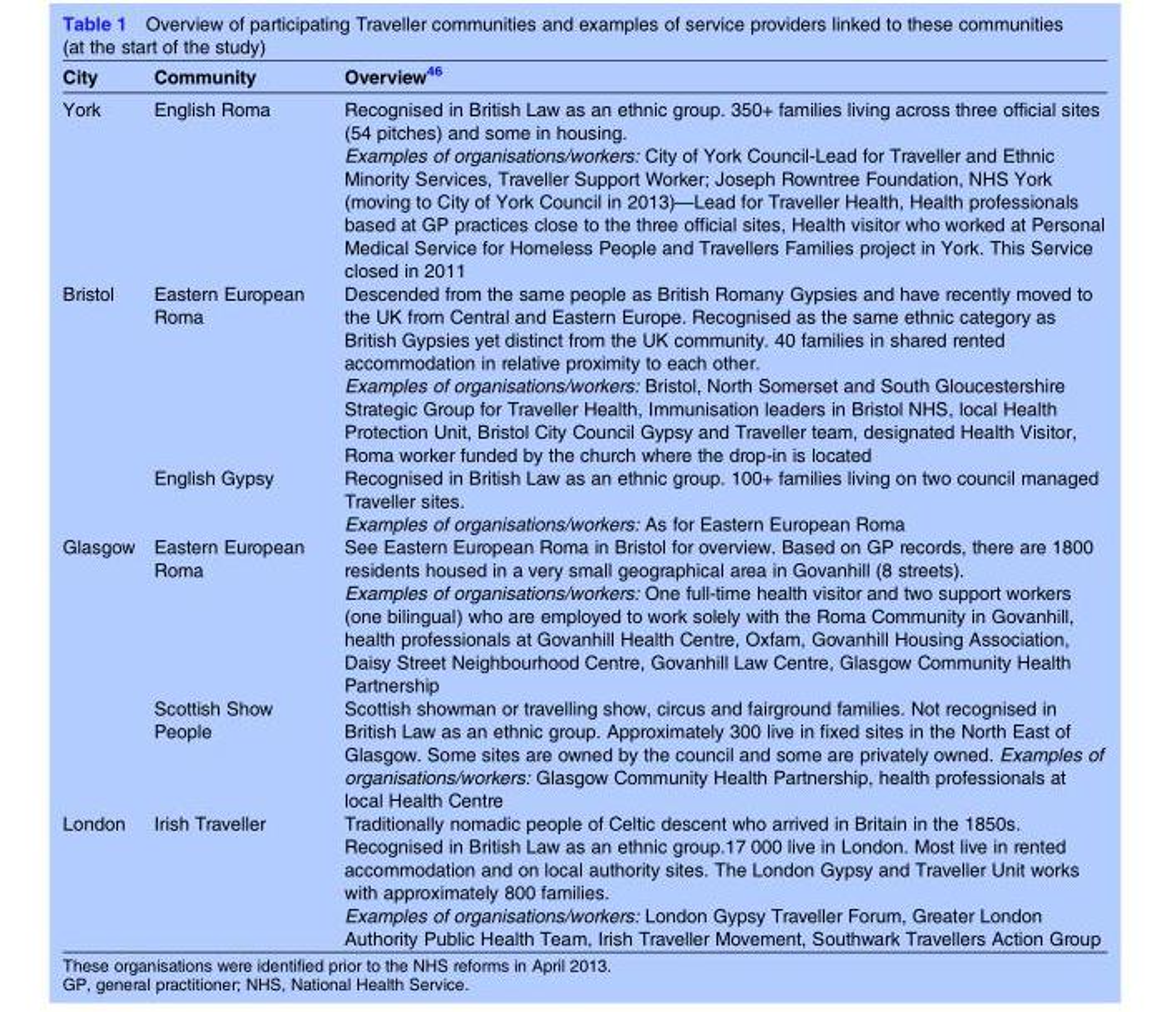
<table><thead><tr><td>City</td><td>Community</td><td>Overview<sup>46</sup></td></tr></thead><tbody><tr><td>York</td><td>English Roma</td><td>Recognised in British Law as an ethnic group. 350+ families living across three official sites (54 pitches) and some in housing. Examples of organisations/workers: City of York Council-Lead for Traveller and Ethnic Minority Services, Traveller Support Worker; Joseph Rowntree Foundation, NHS York (moving to City of York Council in 2013)—Lead for Traveller Health, Health professionals based at GP practices close to the three official sites, Health visitor who worked at Personal Medical Service for Homeless People and Travellers Families project in York. This Service closed in 2011</td></tr><tr><td rowspan="2">Bristol</td><td>Eastern European Roma</td><td>Descended from the same people as British Romany Gypsies and have recently moved to the UK from Central and Eastern Europe. Recognised as the same ethnic category as British Gypsies yet distinct from the UK community. 40 families in shared rented accommodation in relative proximity to each other. Examples of organisations/workers: Bristol, North Somerset and South Gloucestershire Strategic Group for Traveller Health, Immunisation leaders in Bristol NHS, local Health Protection Unit, Bristol City Council Gypsy and Traveller team, designated Health Visitor, Roma worker funded by the church where the drop-in is located</td></tr><tr><td>English Gypsy</td><td>Recognised in British Law as an ethnic group. 100+ families living on two council managed Traveller sites. Examples of organisations/workers: As for Eastern European Roma</td></tr><tr><td rowspan="2">Glasgow</td><td>Eastern European Roma</td><td>See Eastern European Roma in Bristol for overview. Based on GP records, there are 1800 residents housed in a very small geographical area in Govanhill (8 streets). Examples of organisations/workers: One full-time health visitor and two support workers (one bilingual) who are employed to work solely with the Roma Community in Govanhill, health professionals at Govanhill Health Centre, Oxfam, Govanhill Housing Association, Daisy Street Neighbourhood Centre, Govanhill Law Centre, Glasgow Community Health Partnership</td></tr><tr><td>Scottish Show People</td><td>Scottish showman or travelling show, circus and fairground families. Not recognised in British Law as an ethnic group. Approximately 300 live in fixed sites in the North East of Glasgow. Some sites are owned by the council and some are privately owned. Examples of organisations/workers: Glasgow Community Health Partnership, health professionals at local Health Centre</td></tr><tr><td>London</td><td>Irish Traveller</td><td>Traditionally nomadic people of Celtic descent who arrived in Britain in the 1850s. Recognised in British Law as an ethnic group.17 000 live in London. Most live in rented accommodation and on local authority sites. The London Gypsy and Traveller Unit works with approximately 800 families. Examples of organisations/workers: London Gypsy Traveller Forum, Greater London Authority Public Health Team, Irish Traveller Movement, Southwark Travellers Action Group</td></tr></tbody></table>